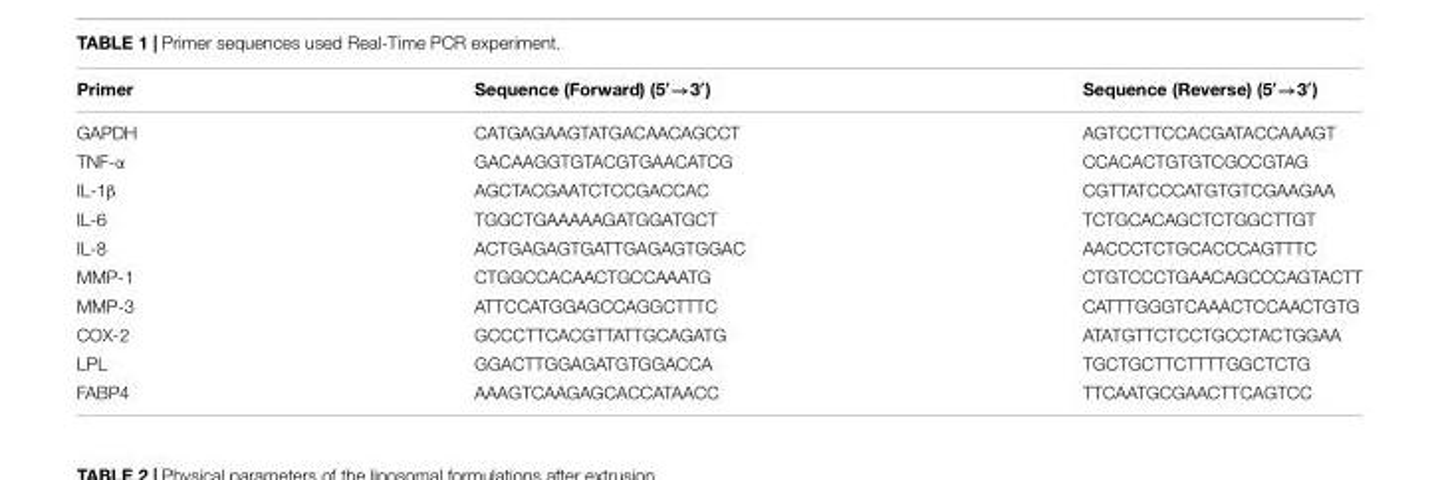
<table><thead><tr><td>Primer</td><td>Sequence (Forward) (5′→3′)</td><td>Sequence (Reverse) (5′→3′)</td></tr></thead><tbody><tr><td>GAPDH</td><td>CATGAGAAGTATGACAACAGCCT</td><td>AGTCCTTCCACGATACCAAAGT</td></tr><tr><td>TNF-α</td><td>GACAAGGTGTACGTGAACATCG</td><td>CCACACTGTGTCGCCGTAG</td></tr><tr><td>IL-1β</td><td>AGCTACGAATCTCCGACCAC</td><td>CGTTATCCCATGTGTCGAAGAA</td></tr><tr><td>IL-6</td><td>TGGCTGAAAAAGATGGATGCT</td><td>TCTGCACAGCTCTGGCTTGT</td></tr><tr><td>IL-8</td><td>ACTGAGAGTGATTGAGAGTGGAC</td><td>AACCCTCTGCACCCAGTTTC</td></tr><tr><td>MMP-1</td><td>CTGGCCACAACTGCCAAATG</td><td>CTGTCCCTGAACAGCCCAGTACTT</td></tr><tr><td>MMP-3</td><td>ATTCCATGGAGCCAGGCTTTC</td><td>CATTTGGGTCAAACTCCAACTGTG</td></tr><tr><td>COX-2</td><td>GCCCTTCACGTTATTGCAGATG</td><td>ATATGTTCTCCTGCCTACTGGAA</td></tr><tr><td>LPL</td><td>GGACTTGGAGATGTGGACCA</td><td>TGCTGCTTCTTTTGGCTCTG</td></tr><tr><td>FABP4</td><td>AAAGTCAAGAGCACCATAACC</td><td>TTCAATGCGAACTTCAGTCC</td></tr></tbody></table>